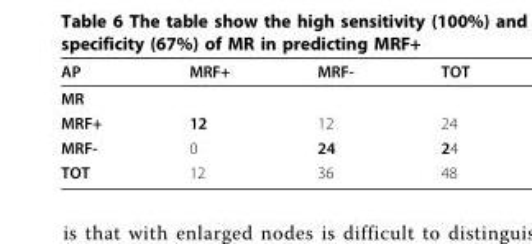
<table><thead><tr><td>AP</td><td>MRF+</td><td>MRF-</td><td>TOT</td></tr></thead><tbody><tr><td colspan="4">MR</td></tr><tr><td>MRF+</td><td>12</td><td>12</td><td>24</td></tr><tr><td>MRF-</td><td>0</td><td>24</td><td>24</td></tr><tr><td>TOT</td><td>12</td><td>36</td><td>48</td></tr></tbody></table>